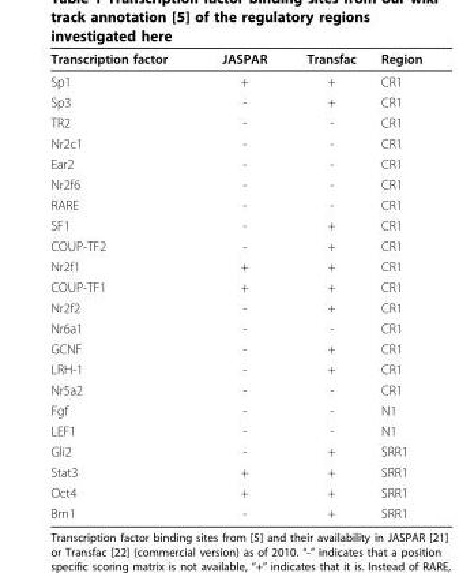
<table><thead><tr><td>Transcription factor</td><td>JASPAR</td><td>Transfac</td><td>Region</td></tr></thead><tbody><tr><td>Sp1</td><td>+</td><td>+</td><td>CR1</td></tr><tr><td>Sp3</td><td>-</td><td>+</td><td>CR1</td></tr><tr><td>TR2</td><td>-</td><td>-</td><td>CR1</td></tr><tr><td>Nr2c1</td><td>-</td><td>-</td><td>CR1</td></tr><tr><td>Ear2</td><td>-</td><td>-</td><td>CR1</td></tr><tr><td>Nr2f6</td><td>-</td><td>-</td><td>CR1</td></tr><tr><td>RARE</td><td>-</td><td>-</td><td>CR1</td></tr><tr><td>SF1</td><td>-</td><td>+</td><td>CR1</td></tr><tr><td>COUP-TF2</td><td>-</td><td>+</td><td>CR1</td></tr><tr><td>Nr2f1</td><td>+</td><td>+</td><td>CR1</td></tr><tr><td>COUP-TF1</td><td>+</td><td>+</td><td>CR1</td></tr><tr><td>Nr2f2</td><td>-</td><td>+</td><td>CR1</td></tr><tr><td>Nr6a1</td><td>-</td><td>-</td><td>CR1</td></tr><tr><td>GCNF</td><td>-</td><td>+</td><td>CR1</td></tr><tr><td>LRH-1</td><td>-</td><td>+</td><td>CR1</td></tr><tr><td>Nr5a2</td><td>-</td><td>-</td><td>CR1</td></tr><tr><td>Fgf</td><td>-</td><td>-</td><td>N1</td></tr><tr><td>LEF1</td><td>-</td><td>-</td><td>N1</td></tr><tr><td>Gli2</td><td>-</td><td>+</td><td>SRR1</td></tr><tr><td>Stat3</td><td>+</td><td>+</td><td>SRR1</td></tr><tr><td>Oct4</td><td>+</td><td>+</td><td>SRR1</td></tr><tr><td>Brn1</td><td>-</td><td>+</td><td>SRR1</td></tr></tbody></table>